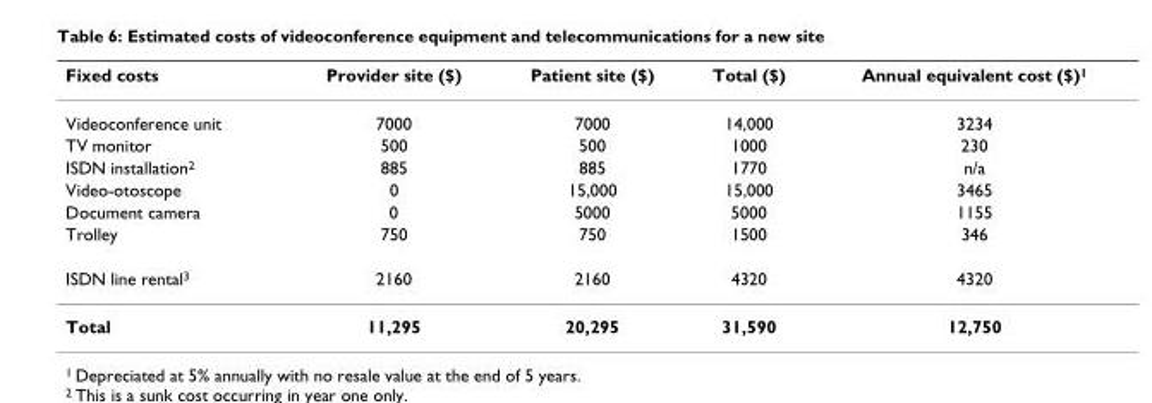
<table><thead><tr><td>Fixed costs</td><td>Provider site ($)</td><td>Patient site ($)</td><td>Total ($)</td><td>Annual equivalent cost ($)<sup>1</sup></td></tr></thead><tbody><tr><td>Videoconference unit</td><td>7000</td><td>7000</td><td>14,000</td><td>3234</td></tr><tr><td>TV monitor</td><td>500</td><td>500</td><td>1000</td><td>230</td></tr><tr><td>ISDN installation<sup>2</sup></td><td>885</td><td>885</td><td>1770</td><td>n/a</td></tr><tr><td>Video-otoscope</td><td>0</td><td>15,000</td><td>15,000</td><td>3465</td></tr><tr><td>Document camera</td><td>0</td><td>5000</td><td>5000</td><td>1155</td></tr><tr><td>Trolley</td><td>750</td><td>750</td><td>1500</td><td>346</td></tr><tr><td>ISDN line rental<sup>3</sup></td><td>2160</td><td>2160</td><td>4320</td><td>4320</td></tr><tr><td>Total</td><td>11,295</td><td>20,295</td><td>31,590</td><td>12,750</td></tr></tbody></table>